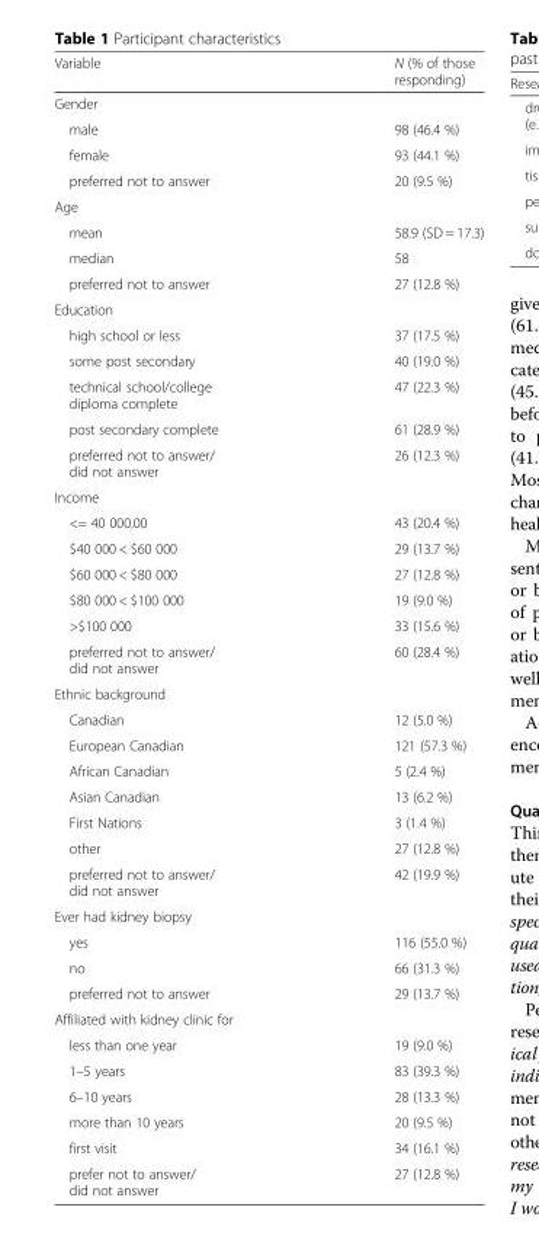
<table><thead><tr><td>Variable</td><td>N (% of those responding)</td></tr></thead><tbody><tr><td colspan="2">Gender</td></tr><tr><td>male</td><td>98 (46.4 %)</td></tr><tr><td>female</td><td>93 (44.1 %)</td></tr><tr><td>preferred not to answer</td><td>20 (9.5 %)</td></tr><tr><td colspan="2">Age</td></tr><tr><td>mean</td><td>58.9 (SD = 17.3)</td></tr><tr><td>median</td><td>58</td></tr><tr><td>preferred not to answer</td><td>27 (12.8 %)</td></tr><tr><td colspan="2">Education</td></tr><tr><td>high school or less</td><td>37 (17.5 %)</td></tr><tr><td>some post secondary</td><td>40 (19.0 %)</td></tr><tr><td>technical school/college diploma complete</td><td>47 (22.3 %)</td></tr><tr><td>post secondary complete</td><td>61 (28.9 %)</td></tr><tr><td>preferred not to answer/ did not answer</td><td>26 (12.3 %)</td></tr><tr><td colspan="2">Income</td></tr><tr><td>&lt;= 40 000.00</td><td>43 (20.4 %)</td></tr><tr><td>$40 000 &lt; $60 000</td><td>29 (13.7 %)</td></tr><tr><td>$60 000 &lt; $80 000</td><td>27 (12.8 %)</td></tr><tr><td>$80 000 &lt; $100 000</td><td>19 (9.0 %)</td></tr><tr><td>&gt;$100 000</td><td>33 (15.6 %)</td></tr><tr><td>preferred not to answer/ did not answer</td><td>60 (28.4 %)</td></tr><tr><td colspan="2">Ethnic background</td></tr><tr><td>Canadian</td><td>12 (5.0 %)</td></tr><tr><td>European Canadian</td><td>121 (57.3 %)</td></tr><tr><td>African Canadian</td><td>5 (2.4 %)</td></tr><tr><td>Asian Canadian</td><td>13 (6.2 %)</td></tr><tr><td>First Nations</td><td>3 (1.4 %)</td></tr><tr><td>other</td><td>27 (12.8 %)</td></tr><tr><td>preferred not to answer/ did not answer</td><td>42 (19.9 %)</td></tr><tr><td colspan="2">Ever had kidney biopsy</td></tr><tr><td>yes</td><td>116 (55.0 %)</td></tr><tr><td>no</td><td>66 (31.3 %)</td></tr><tr><td>preferred not to answer</td><td>29 (13.7 %)</td></tr><tr><td colspan="2">Affiliated with kidney clinic for</td></tr><tr><td>less than one year</td><td>19 (9.0 %)</td></tr><tr><td>1–5 years</td><td>83 (39.3 %)</td></tr><tr><td>6–10 years</td><td>28 (13.3 %)</td></tr><tr><td>more than 10 years</td><td>20 (9.5 %)</td></tr><tr><td>first visit</td><td>34 (16.1 %)</td></tr><tr><td>prefer not to answer/ did not answer</td><td>27 (12.8 %)</td></tr></tbody></table>